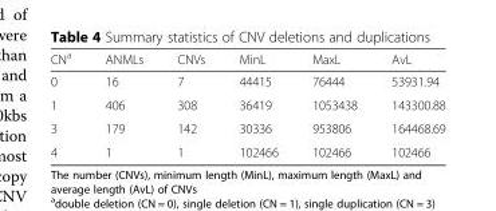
<table><thead><tr><td>CN<sup>a</sup></td><td>ANMLs</td><td>CNVs</td><td>MinL</td><td>MaxL</td><td>AvL</td></tr></thead><tbody><tr><td>0</td><td>16</td><td>7</td><td>44415</td><td>76444</td><td>53931.94</td></tr><tr><td>1</td><td>406</td><td>308</td><td>36419</td><td>1053438</td><td>143300.88</td></tr><tr><td>3</td><td>179</td><td>142</td><td>30336</td><td>953806</td><td>164468.69</td></tr><tr><td>4</td><td>1</td><td>1</td><td>102466</td><td>102466</td><td>102466</td></tr></tbody></table>